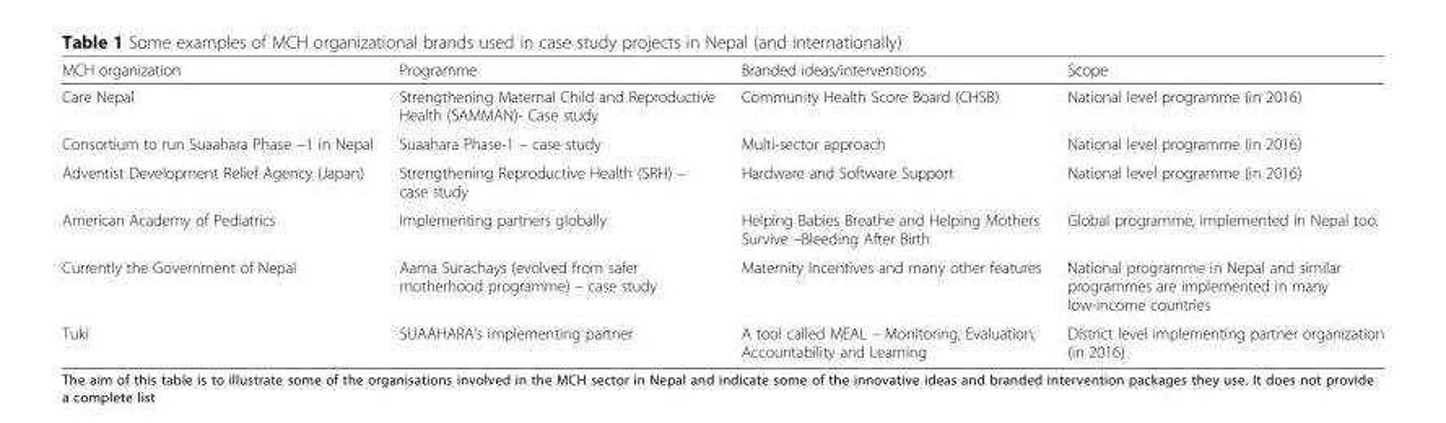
<table><thead><tr><td>MCH organization</td><td>Programme</td><td>Branded ideas/interventions</td><td>Scope</td></tr></thead><tbody><tr><td>Care Nepal</td><td>Strengthening Maternal Child and Reproductive Health (SAMMAN)- Case study</td><td>Community Health Score Board (CHSB)</td><td>National level programme (in 2016)</td></tr><tr><td>Consortium to run Suaahara Phase −1 in Nepal</td><td>Suaahara Phase-1 – case study</td><td>Multi-sector approach</td><td>National level programme (in 2016)</td></tr><tr><td>Adventist Development Relief Agency (Japan)</td><td>Strengthening Reproductive Health (SRH) – case study</td><td>Hardware and Software Support</td><td>National level programme (in 2016)</td></tr><tr><td>American Academy of Pediatrics</td><td>Implementing partners globally</td><td>Helping Babies Breathe and Helping Mothers Survive –Bleeding After Birth</td><td>Global programme, implemented in Nepal too.</td></tr><tr><td>Currently the Government of Nepal</td><td>Aama Surachays (evolved from safer motherhood programme) – case study</td><td>Maternity Incentives and many other features</td><td>National programme in Nepal and similar programmes are implemented in many low-income countries</td></tr><tr><td>Tuki</td><td>SUAAHARA’s implementing partner</td><td>A tool called MEAL – Monitoring, Evaluation, Accountability and Learning</td><td>District level implementing partner organization (in 2016)</td></tr></tbody></table>